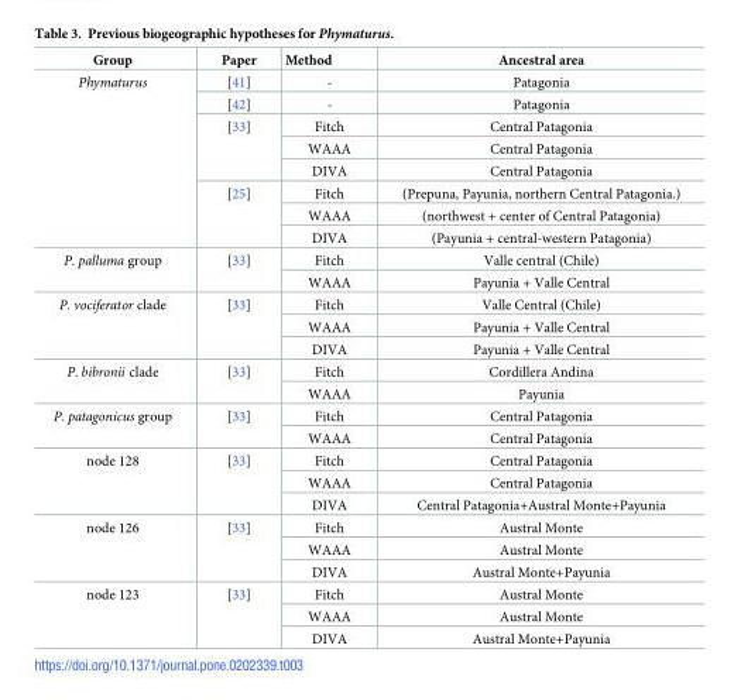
<table><thead><tr><td>Group</td><td>Paper</td><td>Method</td><td>Ancestral area</td></tr></thead><tbody><tr><td rowspan="8">Phymaturus</td><td>[41]</td><td>-</td><td>Patagonia</td></tr><tr><td>[42]</td><td>-</td><td>Patagonia</td></tr><tr><td rowspan="3">[33]</td><td>Fitch</td><td>Central Patagonia</td></tr><tr><td>WAAA</td><td>Central Patagonia</td></tr><tr><td>DIVA</td><td>Central Patagonia</td></tr><tr><td rowspan="3">[25]</td><td>Fitch</td><td>(Prepuna, Payunia, northern Central Patagonia.)</td></tr><tr><td>WAAA</td><td>(northwest + center of Central Patagonia)</td></tr><tr><td>DIVA</td><td>(Payunia + central-western Patagonia)</td></tr><tr><td rowspan="2">P. palluma group</td><td rowspan="2">[33]</td><td>Fitch</td><td>Valle central (Chile)</td></tr><tr><td>WAAA</td><td>Payunia + Valle Central</td></tr><tr><td rowspan="3">P. vociferator clade</td><td rowspan="3">[33]</td><td>Fitch</td><td>Valle Central (Chile)</td></tr><tr><td>WAAA</td><td>Payunia + Valle Central</td></tr><tr><td>DIVA</td><td>Payunia + Valle Central</td></tr><tr><td rowspan="2">P. bibronii clade</td><td rowspan="2">[33]</td><td>Fitch</td><td>Cordillera Andina</td></tr><tr><td>WAAA</td><td>Payunia</td></tr><tr><td rowspan="2">P. patagonicus group</td><td rowspan="2">[33]</td><td>Fitch</td><td>Central Patagonia</td></tr><tr><td>WAAA</td><td>Central Patagonia</td></tr><tr><td rowspan="3">node 128</td><td rowspan="3">[33]</td><td>Fitch</td><td>Central Patagonia</td></tr><tr><td>WAAA</td><td>Central Patagonia</td></tr><tr><td>DIVA</td><td>Central Patagonia+Austral Monte+Payunia</td></tr><tr><td rowspan="3">node 126</td><td rowspan="3">[33]</td><td>Fitch</td><td>Austral Monte</td></tr><tr><td>WAAA</td><td>Austral Monte</td></tr><tr><td>DIVA</td><td>Austral Monte+Payunia</td></tr><tr><td rowspan="3">node 123</td><td rowspan="3">[33]</td><td>Fitch</td><td>Austral Monte</td></tr><tr><td>WAAA</td><td>Austral Monte</td></tr><tr><td>DIVA</td><td>Austral Monte+Payunia</td></tr></tbody></table>